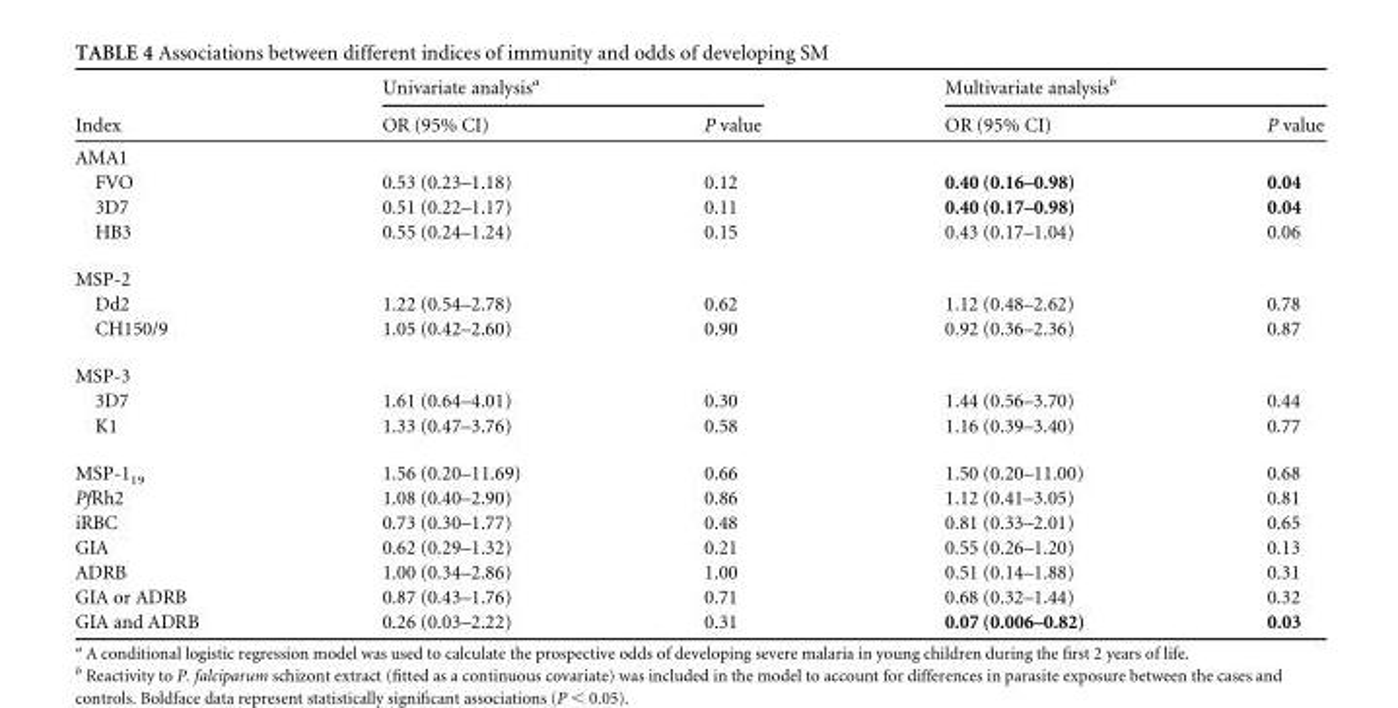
<table><thead><tr><td rowspan="2">Index</td><td colspan="2">Univariate analysis<sup>a</sup></td><td colspan="2">Multivariate analysis<sup>b</sup></td></tr><tr><td>OR (95% CI)</td><td>P value</td><td>OR (95% CI)</td><td>P value</td></tr></thead><tbody><tr><td colspan="5">AMA1</td></tr><tr><td>FVO</td><td>0.53 (0.23–1.18)</td><td>0.12</td><td>0.40 (0.16–0.98)</td><td>0.04</td></tr><tr><td>3D7</td><td>0.51 (0.22–1.17)</td><td>0.11</td><td>0.40 (0.17–0.98)</td><td>0.04</td></tr><tr><td>HB3</td><td>0.55 (0.24–1.24)</td><td>0.15</td><td>0.43 (0.17–1.04)</td><td>0.06</td></tr><tr><td colspan="5">MSP-2</td></tr><tr><td>Dd2</td><td>1.22 (0.54–2.78)</td><td>0.62</td><td>1.12 (0.48–2.62)</td><td>0.78</td></tr><tr><td>CH150/9</td><td>1.05 (0.42–2.60)</td><td>0.90</td><td>0.92 (0.36–2.36)</td><td>0.87</td></tr><tr><td colspan="5">MSP-3</td></tr><tr><td>3D7</td><td>1.61 (0.64–4.01)</td><td>0.30</td><td>1.44 (0.56–3.70)</td><td>0.44</td></tr><tr><td>K1</td><td>1.33 (0.47–3.76)</td><td>0.58</td><td>1.16 (0.39–3.40)</td><td>0.77</td></tr><tr><td>MSP-1<sub>19</sub></td><td>1.56 (0.20–11.69)</td><td>0.66</td><td>1.50 (0.20–11.00)</td><td>0.68</td></tr><tr><td>PfRh2</td><td>1.08 (0.40–2.90)</td><td>0.86</td><td>1.12 (0.41–3.05)</td><td>0.81</td></tr><tr><td>iRBC</td><td>0.73 (0.30–1.77)</td><td>0.48</td><td>0.81 (0.33–2.01)</td><td>0.65</td></tr><tr><td>GIA</td><td>0.62 (0.29–1.32)</td><td>0.21</td><td>0.55 (0.26–1.20)</td><td>0.13</td></tr><tr><td>ADRB</td><td>1.00 (0.34–2.86)</td><td>1.00</td><td>0.51 (0.14–1.88)</td><td>0.31</td></tr><tr><td>GIA or ADRB</td><td>0.87 (0.43–1.76)</td><td>0.71</td><td>0.68 (0.32–1.44)</td><td>0.32</td></tr><tr><td>GIA and ADRB</td><td>0.26 (0.03–2.22)</td><td>0.31</td><td>0.07 (0.006–0.82)</td><td>0.03</td></tr></tbody></table>